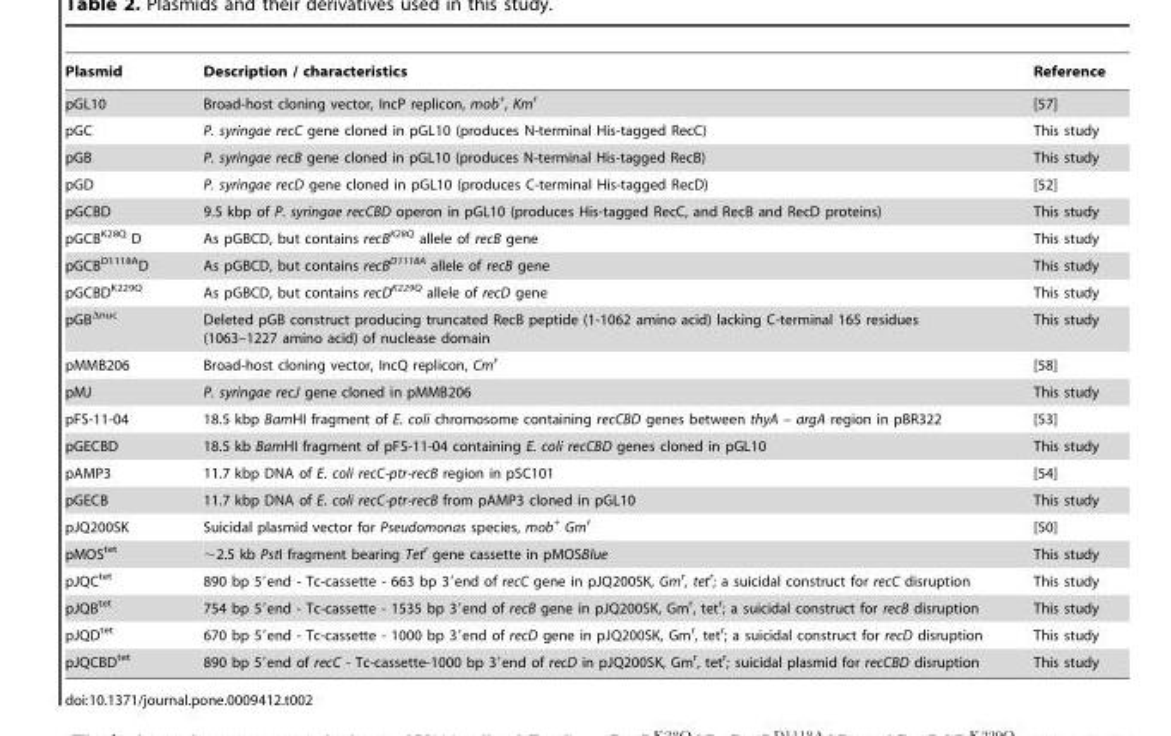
<table><thead><tr><td>Plasmid</td><td>Description / characteristics</td><td>Reference</td></tr></thead><tbody><tr><td>pGL10</td><td>Broad-host cloning vector, IncP replicon, mob<sup>+</sup>, Km<sup>r</sup></td><td>[57]</td></tr><tr><td>pGC</td><td>P. syringae recC gene cloned in pGL10 (produces N-terminal His-tagged RecC)</td><td>This study</td></tr><tr><td>pGB</td><td>P. syringae recB gene cloned in pGL10 (produces N-terminal His-tagged RecB)</td><td>This study</td></tr><tr><td>pGD</td><td>P. syringae recD gene cloned in pGL10 (produces C-terminal His-tagged RecD)</td><td>[52]</td></tr><tr><td>pGCBD</td><td>9.5 kbp of P. syringae recCBD operon in pGL10 (produces His-tagged RecC, and RecB and RecD proteins)</td><td>This study</td></tr><tr><td>pGCB<sup>K28Q</sup> D</td><td>As pGBCD, but contains recB<sup>K28Q</sup> allele of recB gene</td><td>This study</td></tr><tr><td>pGCB<sup>D1118A</sup>D</td><td>As pGBCD, but contains recB<sup>D1118A</sup> allele of recB gene</td><td>This study</td></tr><tr><td>pGCBD<sup>K229Q</sup></td><td>As pGBCD, but contains recD<sup>K229Q</sup> allele of recD gene</td><td>This study</td></tr><tr><td>pGB<sup>Δnuc</sup></td><td>Deleted pGB construct producing truncated RecB peptide (1-1062 amino acid) lacking C-terminal 165 residues (1063–1227 amino acid) of nuclease domain</td><td>This study</td></tr><tr><td>pMMB206</td><td>Broad-host cloning vector, IncQ replicon, Cm<sup>r</sup></td><td>[58]</td></tr><tr><td>pMJ</td><td>P. syringae recJ gene cloned in pMMB206</td><td>This study</td></tr><tr><td>pFS-11-04</td><td>18.5 kbp BamHI fragment of E. coli chromosome containing recCBD genes between thyA – argA region in pBR322</td><td>[53]</td></tr><tr><td>pGECBD</td><td>18.5 kb BamHI fragment of pFS-11-04 containing E. coli recCBD genes cloned in pGL10</td><td>This study</td></tr><tr><td>pAMP3</td><td>11.7 kbp DNA of E. coli recC-ptr-recB region in pSC101</td><td>[54]</td></tr><tr><td>pGECB</td><td>11.7 kbp DNA of E. coli recC-ptr-recB from pAMP3 cloned in pGL10</td><td>This study</td></tr><tr><td>pJQ200SK</td><td>Suicidal plasmid vector for Pseudomonas species, mob<sup>+</sup> Gm<sup>r</sup></td><td>[50]</td></tr><tr><td>pMOS<sup>tet</sup></td><td>∼2.5 kb PstI fragment bearing Tet<sup>r</sup> gene cassette in pMOSBlue</td><td>This study</td></tr><tr><td>pJQC<sup>tet</sup></td><td>890 bp 5′end - Tc-cassette - 663 bp 3′end of recC gene in pJQ200SK, Gm<sup>r</sup>, tet<sup>r</sup>; a suicidal construct for recC disruption</td><td>This study</td></tr><tr><td>pJQB<sup>tet</sup></td><td>754 bp 5′end - Tc-cassette - 1535 bp 3′end of recB gene in pJQ200SK, Gm<sup>r</sup>, tet<sup>r</sup>; a suicidal construct for recB disruption</td><td>This study</td></tr><tr><td>pJQD<sup>tet</sup></td><td>670 bp 5′end - Tc-cassette - 1000 bp 3′end of recD gene in pJQ200SK, Gm<sup>r</sup>, tet<sup>r</sup>; a suicidal construct for recD disruption</td><td>This study</td></tr><tr><td>pJQCBD<sup>tet</sup></td><td>890 bp 5′end of recC - Tc-cassette-1000 bp 3′end of recD in pJQ200SK, Gm<sup>r</sup>, tet<sup>r</sup>; suicidal plasmid for recCBD disruption</td><td>This study</td></tr></tbody></table>